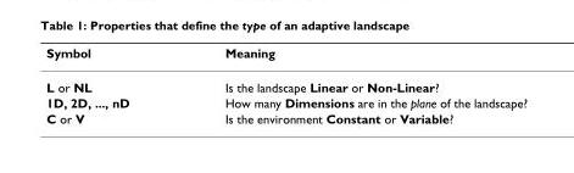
<table><thead><tr><td>Symbol</td><td>Meaning</td></tr></thead><tbody><tr><td>L or NL</td><td>Is the landscape Linear or Non-Linear?</td></tr><tr><td>1D, 2D, ..., nD</td><td>How many Dimensions are in the plane of the landscape?</td></tr><tr><td>C or V</td><td>Is the environment Constant or Variable?</td></tr></tbody></table>